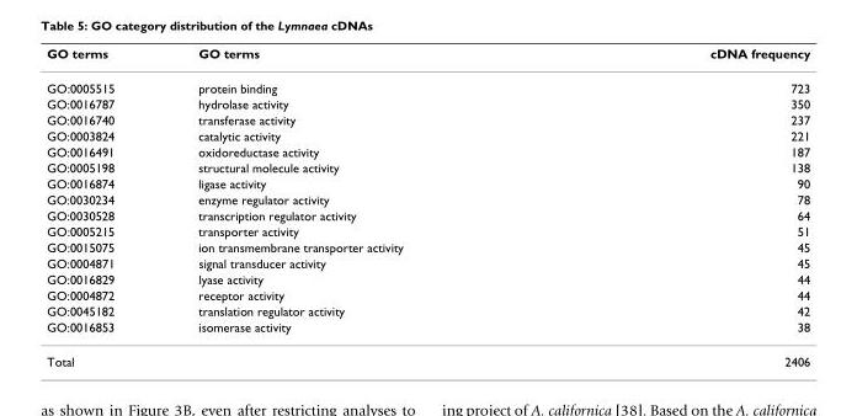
<table><thead><tr><td>GO terms</td><td>GO terms</td><td>cDNA frequency</td></tr></thead><tbody><tr><td>GO:0005515</td><td>protein binding</td><td>723</td></tr><tr><td>GO:0016787</td><td>hydrolase activity</td><td>350</td></tr><tr><td>GO:0016740</td><td>transferase activity</td><td>237</td></tr><tr><td>GO:0003824</td><td>catalytic activity</td><td>221</td></tr><tr><td>GO:0016491</td><td>oxidoreductase activity</td><td>187</td></tr><tr><td>GO:0005198</td><td>structural molecule activity</td><td>138</td></tr><tr><td>GO:0016874</td><td>ligase activity</td><td>90</td></tr><tr><td>GO:0030234</td><td>enzyme regulator activity</td><td>78</td></tr><tr><td>GO:0030528</td><td>transcription regulator activity</td><td>64</td></tr><tr><td>GO:0005215</td><td>transporter activity</td><td>51</td></tr><tr><td>GO:0015075</td><td>ion transmembrane transporter activity</td><td>45</td></tr><tr><td>GO:0004871</td><td>signal transducer activity</td><td>45</td></tr><tr><td>GO:0016829</td><td>lyase activity</td><td>44</td></tr><tr><td>GO:0004872</td><td>receptor activity</td><td>44</td></tr><tr><td>GO:0045182</td><td>translation regulator activity</td><td>42</td></tr><tr><td>GO:0016853</td><td>isomerase activity</td><td>38</td></tr><tr><td>Total</td><td></td><td>2406</td></tr></tbody></table>